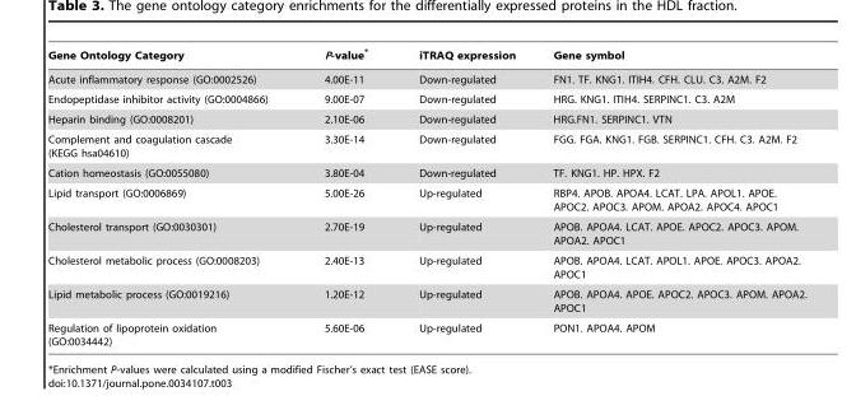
<table><thead><tr><td>Gene Ontology Category</td><td>P-value*</td><td>iTRAQ expression</td><td>Gene symbol</td></tr></thead><tbody><tr><td>Acute inflammatory response (GO:0002526)</td><td>4.00E-11</td><td>Down-regulated</td><td>FN1. TF. KNG1. ITIH4. CFH. CLU. C3. A2M. F2</td></tr><tr><td>Endopeptidase inhibitor activity (GO:0004866)</td><td>9.00E-07</td><td>Down-regulated</td><td>HRG. KNG1. ITIH4. SERPINC1. C3. A2M</td></tr><tr><td>Heparin binding (GO:0008201)</td><td>2.10E-06</td><td>Down-regulated</td><td>HRG.FN1. SERPINC1. VTN</td></tr><tr><td>Complement and coagulation cascade (KEGG hsa04610)</td><td>3.30E-14</td><td>Down-regulated</td><td>FGG. FGA. KNG1. FGB. SERPINC1. CFH. C3. A2M. F2</td></tr><tr><td>Cation homeostasis (GO:0055080)</td><td>3.80E-04</td><td>Down-regulated</td><td>TF. KNG1. HP. HPX. F2</td></tr><tr><td>Lipid transport (GO:0006869)</td><td>5.00E-26</td><td>Up-regulated</td><td>RBP4. APOB. APOA4. LCAT. LPA. APOL1. APOE. APOC2. APOC3. APOM. APOA2. APOC4. APOC1</td></tr><tr><td>Cholesterol transport (GO:0030301)</td><td>2.70E-19</td><td>Up-regulated</td><td>APOB. APOA4. LCAT. APOE. APOC2. APOC3. APOM. APOA2. APOC1</td></tr><tr><td>Cholesterol metabolic process (GO:0008203)</td><td>2.40E-13</td><td>Up-regulated</td><td>APOB. APOA4. LCAT. APOL1. APOE. APOC3. APOA2. APOC1</td></tr><tr><td>Lipid metabolic process (GO:0019216)</td><td>1.20E-12</td><td>Up-regulated</td><td>APOB. APOA4. APOE. APOC2. APOC3. APOM. APOA2. APOC1</td></tr><tr><td>Regulation of lipoprotein oxidation (GO:0034442)</td><td>5.60E-06</td><td>Up-regulated</td><td>PON1. APOA4. APOM</td></tr></tbody></table>